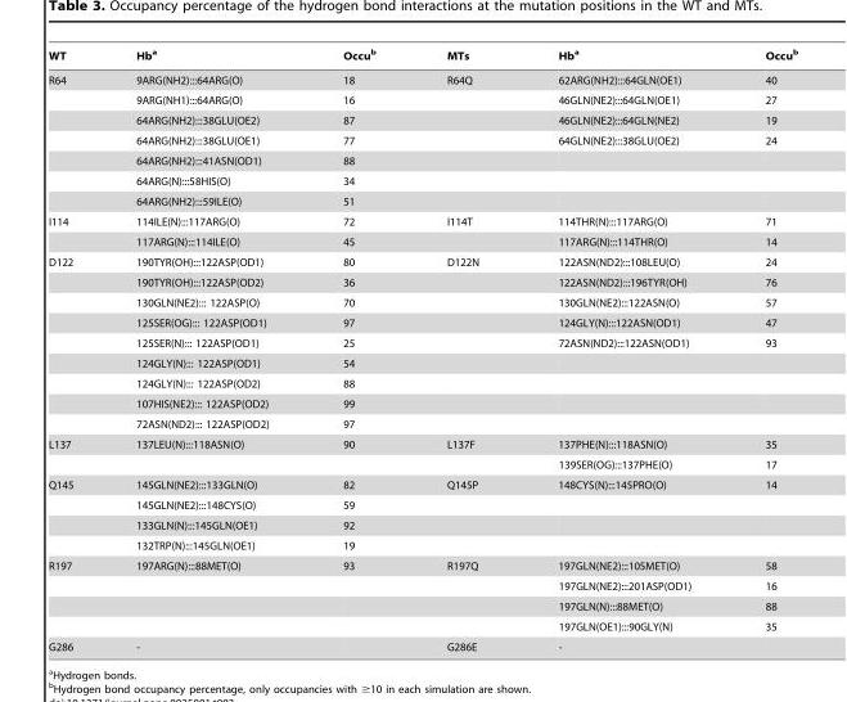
<table><thead><tr><td>WT</td><td>Hb<sup>a</sup></td><td>Occu<sup>b</sup></td><td>MTs</td><td>Hb<sup>a</sup></td><td>Occu<sup>b</sup></td></tr></thead><tbody><tr><td rowspan="7">R64</td><td>9ARG(NH2):::64ARG(O)</td><td>18</td><td>R64Q</td><td>62ARG(NH2):::64GLN(OE1)</td><td>40</td></tr><tr><td>9ARG(NH1):::64ARG(O)</td><td>16</td><td></td><td>46GLN(NE2):::64GLN(OE1)</td><td>27</td></tr><tr><td>64ARG(NH2):::38GLU(OE2)</td><td>87</td><td></td><td>46GLN(NE2):::64GLN(NE2)</td><td>19</td></tr><tr><td>64ARG(NH2):::38GLU(OE1)</td><td>77</td><td></td><td>64GLN(NE2):::38GLU(OE2)</td><td>24</td></tr><tr><td>64ARG(NH2):::41ASN(OD1)</td><td>88</td><td></td><td></td><td></td></tr><tr><td>64ARG(N):::58HIS(O)</td><td>34</td><td></td><td></td><td></td></tr><tr><td>64ARG(NH2):::59ILE(O)</td><td>51</td><td></td><td></td><td></td></tr><tr><td rowspan="2">I114</td><td>114ILE(N):::117ARG(O)</td><td>72</td><td>I114T</td><td>114THR(N):::117ARG(O)</td><td>71</td></tr><tr><td>117ARG(N):::114ILE(O)</td><td>45</td><td></td><td>117ARG(N):::114THR(O)</td><td>14</td></tr><tr><td rowspan="9">D122</td><td>190TYR(OH):::122ASP(OD1)</td><td>80</td><td>D122N</td><td>122ASN(ND2):::108LEU(O)</td><td>24</td></tr><tr><td>190TYR(OH):::122ASP(OD2)</td><td>36</td><td></td><td>122ASN(ND2):::196TYR(OH)</td><td>76</td></tr><tr><td>130GLN(NE2)::: 122ASP(O)</td><td>70</td><td></td><td>130GLN(NE2):::122ASN(O)</td><td>57</td></tr><tr><td>125SER(OG)::: 122ASP(OD1)</td><td>97</td><td></td><td>124GLY(N):::122ASN(OD1)</td><td>47</td></tr><tr><td>125SER(N)::: 122ASP(OD1)</td><td>25</td><td></td><td>72ASN(ND2):::122ASN(OD1)</td><td>93</td></tr><tr><td>124GLY(N)::: 122ASP(OD1)</td><td>54</td><td></td><td></td><td></td></tr><tr><td>124GLY(N)::: 122ASP(OD2)</td><td>88</td><td></td><td></td><td></td></tr><tr><td>107HIS(NE2)::: 122ASP(OD2)</td><td>99</td><td></td><td></td><td></td></tr><tr><td>72ASN(ND2)::: 122ASP(OD2)</td><td>97</td><td></td><td></td><td></td></tr><tr><td rowspan="2">L137</td><td>137LEU(N):::118ASN(O)</td><td>90</td><td>L137F</td><td>137PHE(N):::118ASN(O)</td><td>35</td></tr><tr><td></td><td></td><td></td><td>139SER(OG):::137PHE(O)</td><td>17</td></tr><tr><td rowspan="4">Q145</td><td>145GLN(NE2):::133GLN(O)</td><td>82</td><td>Q145P</td><td>148CYS(N):::145PRO(O)</td><td>14</td></tr><tr><td>145GLN(NE2):::148CYS(O)</td><td>59</td><td></td><td></td><td></td></tr><tr><td>133GLN(N):::145GLN(OE1)</td><td>92</td><td></td><td></td><td></td></tr><tr><td>132TRP(N):::145GLN(OE1)</td><td>19</td><td></td><td></td><td></td></tr><tr><td rowspan="4">R197</td><td>197ARG(N):::88MET(O)</td><td>93</td><td>R197Q</td><td>197GLN(NE2):::105MET(O)</td><td>58</td></tr><tr><td></td><td></td><td></td><td>197GLN(NE2):::201ASP(OD1)</td><td>16</td></tr><tr><td></td><td></td><td></td><td>197GLN(N):::88MET(O)</td><td>88</td></tr><tr><td></td><td></td><td></td><td>197GLN(OE1):::90GLY(N)</td><td>35</td></tr><tr><td>G286</td><td>-</td><td></td><td>G286E</td><td>-</td><td></td></tr></tbody></table>